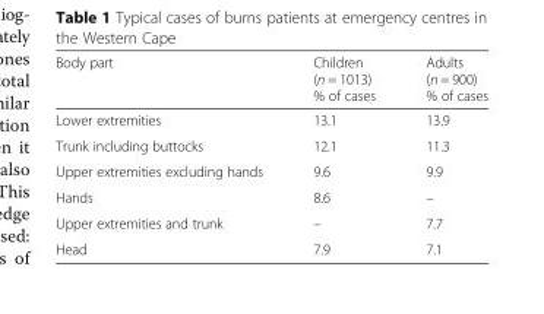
<table><thead><tr><td>Body part</td><td>Children (n = 1013) % of cases</td><td>Adults (n = 900) % of cases</td></tr></thead><tbody><tr><td>Lower extremities</td><td>13.1</td><td>13.9</td></tr><tr><td>Trunk including buttocks</td><td>12.1</td><td>11.3</td></tr><tr><td>Upper extremities excluding hands</td><td>9.6</td><td>9.9</td></tr><tr><td>Hands</td><td>8.6</td><td>–</td></tr><tr><td>Upper extremities and trunk</td><td>–</td><td>7.7</td></tr><tr><td>Head</td><td>7.9</td><td>7.1</td></tr></tbody></table>